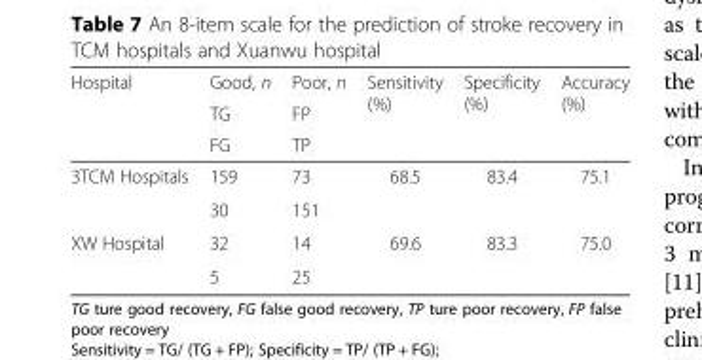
<table><thead><tr><td rowspan="3">Hospital</td><td rowspan="3">Good, n TG FG</td><td rowspan="3">Poor, n FP TP</td><td rowspan="3">Sensitivity (%)</td><td rowspan="3">Specificity (%)</td><td rowspan="3">Accuracy (%)</td></tr><tr></tr><tr></tr></thead><tbody><tr><td rowspan="2">3TCM Hospitals</td><td>159</td><td>73</td><td rowspan="2">68.5</td><td rowspan="2">83.4</td><td rowspan="2">75.1</td></tr><tr><td>30</td><td>151</td></tr><tr><td rowspan="2">XW Hospital</td><td>32</td><td>14</td><td rowspan="2">69.6</td><td rowspan="2">83.3</td><td rowspan="2">75.0</td></tr><tr><td>5</td><td>25</td></tr></tbody></table>